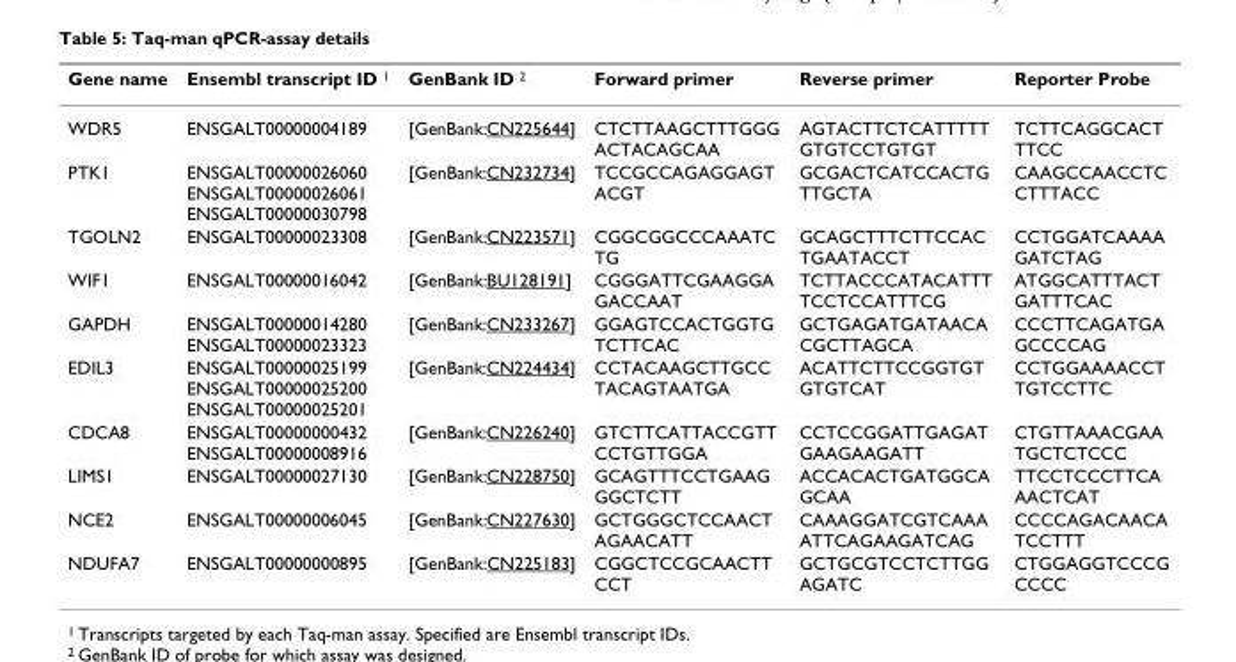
<table><thead><tr><td>Gene name</td><td>Ensembl transcript ID <sup>1</sup></td><td>GenBank ID <sup>2</sup></td><td>Forward primer</td><td>Reverse primer</td><td>Reporter Probe</td></tr></thead><tbody><tr><td>WDR5</td><td>ENSGALT00000004189</td><td>[GenBank:CN225644]</td><td>CTCTTAAGCTTTGGG ACTACAGCAA</td><td>AGTACTTCTCATTTTT GTGTCCTGTGT</td><td>TCTTCAGGCACT TTCC</td></tr><tr><td>PTK1</td><td>ENSGALT00000026060 ENSGALT00000026061 ENSGALT00000030798</td><td>[GenBank:CN232734]</td><td>TCCGCCAGAGGAGT ACGT</td><td>GCGACTCATCCACTG TTGCTA</td><td>CAAGCCAACCTC CTTTACC</td></tr><tr><td>TGOLN2</td><td>ENSGALT00000023308</td><td>[GenBank:CN223571]</td><td>CGGCGGCCCAAATC TG</td><td>GCAGCTTTCTTCCAC TGAATACCT</td><td>CCTGGATCAAAA GATCTAG</td></tr><tr><td>WIF1</td><td>ENSGALT00000016042</td><td>[GenBank:BU128191]</td><td>CGGGATTCGAAGGA GACCAAT</td><td>TCTTACCCATACATTT TCCTCCATTTCG</td><td>ATGGCATTTACT GATTTCAC</td></tr><tr><td>GAPDH</td><td>ENSGALT00000014280 ENSGALT00000023323</td><td>[GenBank:CN233267]</td><td>GGAGTCCACTGGTG TCTTCAC</td><td>GCTGAGATGATAACA CGCTTAGCA</td><td>CCCTTCAGATGA GCCCCAG</td></tr><tr><td>EDIL3</td><td>ENSGALT00000025199 ENSGALT00000025200 ENSGALT00000025201</td><td>[GenBank:CN224434]</td><td>CCTACAAGCTTGCC TACAGTAATGA</td><td>ACATTCTTCCGGTGT GTGTCAT</td><td>CCTGGAAAACCT TGTCCTTC</td></tr><tr><td>CDCA8</td><td>ENSGALT00000000432 ENSGALT00000008916</td><td>[GenBank:CN226240]</td><td>GTCTTCATTACCGTT CCTGTTGGA</td><td>CCTCCGGATTGAGAT GAAGAAGATT</td><td>CTGTTAAACGAA TGCTCTCCC</td></tr><tr><td>LIMS1</td><td>ENSGALT00000027130</td><td>[GenBank:CN228750]</td><td>GCAGTTTCCTGAAG GGCTCTT</td><td>ACCACACTGATGGCA GCAA</td><td>TTCCTCCCTTCA AACTCAT</td></tr><tr><td>NCE2</td><td>ENSGALT00000006045</td><td>[GenBank:CN227630]</td><td>GCTGGGCTCCAACT AGAACATT</td><td>CAAAGGATCGTCAAA ATTCAGAAGATCAG</td><td>CCCCAGACAACA TCCTTT</td></tr><tr><td>NDUFA7</td><td>ENSGALT00000000895</td><td>[GenBank:CN225183]</td><td>CGGCTCCGCAACTT CCT</td><td>GCTGCGTCCTCTTGG AGATC</td><td>CTGGAGGTCCCG CCCC</td></tr></tbody></table>